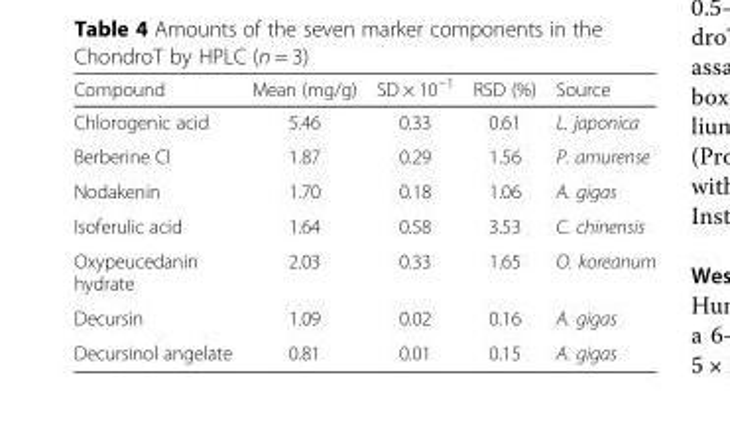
<table><thead><tr><td>Compound</td><td>Mean (mg/g)</td><td>SD × 10<sup>−1</sup></td><td>RSD (%)</td><td>Source</td></tr></thead><tbody><tr><td>Chlorogenic acid</td><td>5.46</td><td>0.33</td><td>0.61</td><td>L. japonica</td></tr><tr><td>Berberine Cl</td><td>1.87</td><td>0.29</td><td>1.56</td><td>P. amurense</td></tr><tr><td>Nodakenin</td><td>1.70</td><td>0.18</td><td>1.06</td><td>A. gigas</td></tr><tr><td>Isoferulic acid</td><td>1.64</td><td>0.58</td><td>3.53</td><td>C. chinensis</td></tr><tr><td>Oxypeucedanin hydrate</td><td>2.03</td><td>0.33</td><td>1.65</td><td>O. koreanum</td></tr><tr><td>Decursin</td><td>1.09</td><td>0.02</td><td>0.16</td><td>A. gigas</td></tr><tr><td>Decursinol angelate</td><td>0.81</td><td>0.01</td><td>0.15</td><td>A. gigas</td></tr></tbody></table>